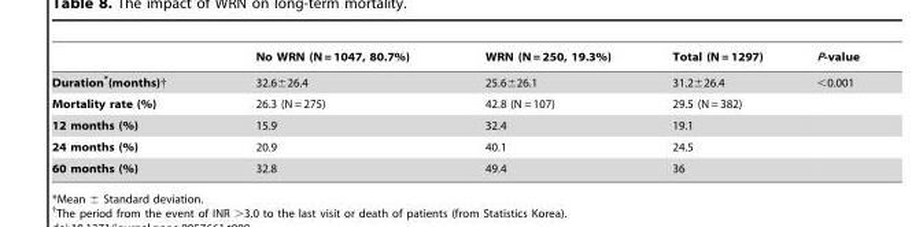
<table><thead><tr><td></td><td>No WRN (N = 1047, 80.7%)</td><td>WRN (N = 250, 19.3%)</td><td>Total (N = 1297)</td><td>P-value</td></tr></thead><tbody><tr><td>Duration*(months)†</td><td>32.6±26.4</td><td>25.6±26.1</td><td>31.2±26.4</td><td>&lt;0.001</td></tr><tr><td>Mortality rate (%)</td><td>26.3 (N = 275)</td><td>42.8 (N = 107)</td><td>29.5 (N = 382)</td><td></td></tr><tr><td>12 months (%)</td><td>15.9</td><td>32.4</td><td>19.1</td><td></td></tr><tr><td>24 months (%)</td><td>20.9</td><td>40.1</td><td>24.5</td><td></td></tr><tr><td>60 months (%)</td><td>32.8</td><td>49.4</td><td>36</td><td></td></tr></tbody></table>